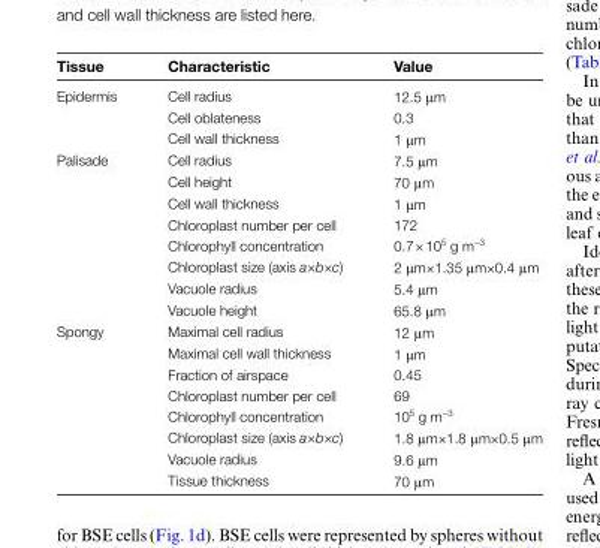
<table><thead><tr><td>Tissue</td><td>Characteristic</td><td>Value</td></tr></thead><tbody><tr><td rowspan="3">Epidermis</td><td>Cell radius</td><td>12.5 μm</td></tr><tr><td>Cell oblateness</td><td>0.3</td></tr><tr><td>Cell wall thickness</td><td>1 μm</td></tr><tr><td rowspan="8">Palisade</td><td>Cell radius</td><td>7.5 μm</td></tr><tr><td>Cell height</td><td>70 μm</td></tr><tr><td>Cell wall thickness</td><td>1 μm</td></tr><tr><td>Chloroplast number per cell</td><td>172</td></tr><tr><td>Chlorophyll concentration</td><td>0.7 × 10<sup>5</sup> g m<sup>−3</sup></td></tr><tr><td>Chloroplast size (axis a×b×c)</td><td>2 μm×1.35 μm×0.4 μm</td></tr><tr><td>Vacuole radius</td><td>5.4 μm</td></tr><tr><td>Vacuole height</td><td>65.8 μm</td></tr><tr><td rowspan="8">Spongy</td><td>Maximal cell radius</td><td>12 μm</td></tr><tr><td>Maximal cell wall thickness</td><td>1 μm</td></tr><tr><td>Fraction of airspace</td><td>0.45</td></tr><tr><td>Chloroplast number per cell</td><td>69</td></tr><tr><td>Chlorophyll concentration</td><td>10<sup>5</sup> g m<sup>−3</sup></td></tr><tr><td>Chloroplast size (axis a×b×c)</td><td>1.8 μm×1.8 μm×0.5 μm</td></tr><tr><td>Vacuole radius</td><td>9.6 μm</td></tr><tr><td>Tissue thickness</td><td>70 μm</td></tr></tbody></table>